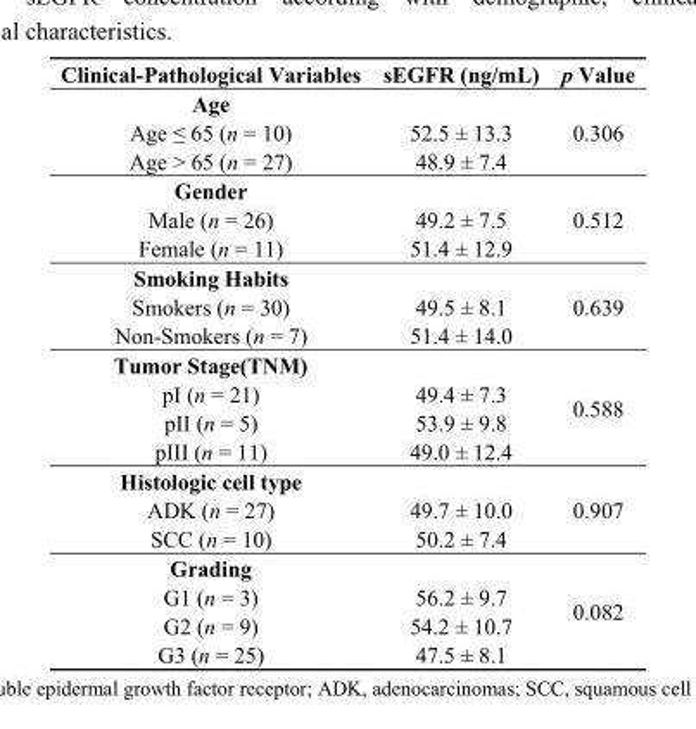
<table><thead><tr><td>Clinical-Pathological Variables</td><td>sEGFR (ng/mL)</td><td>p Value</td></tr></thead><tbody><tr><td colspan="2">Age</td><td rowspan="3">0.306</td></tr><tr><td>Age ≤ 65 (n = 10)</td><td>52.5 ± 13.3</td></tr><tr><td>Age &gt; 65 (n = 27)</td><td>48.9 ± 7.4</td></tr><tr><td colspan="2">Gender</td><td rowspan="3">0.512</td></tr><tr><td>Male (n = 26)</td><td>49.2 ± 7.5</td></tr><tr><td>Female (n = 11)</td><td>51.4 ± 12.9</td></tr><tr><td colspan="2">Smoking Habits</td><td rowspan="3">0.639</td></tr><tr><td>Smokers (n = 30)</td><td>49.5 ± 8.1</td></tr><tr><td>Non-Smokers (n = 7)</td><td>51.4 ± 14.0</td></tr><tr><td colspan="2">Tumor Stage(TNM)</td><td rowspan="4">0.588</td></tr><tr><td>pI (n = 21)</td><td>49.4 ± 7.3</td></tr><tr><td>pII (n = 5)</td><td>53.9 ± 9.8</td></tr><tr><td>pIII (n = 11)</td><td>49.0 ± 12.4</td></tr><tr><td colspan="2">Histologic cell type</td><td rowspan="3">0.907</td></tr><tr><td>ADK (n = 27)</td><td>49.7 ± 10.0</td></tr><tr><td>SCC (n = 10)</td><td>50.2 ± 7.4</td></tr><tr><td colspan="2">Grading</td><td rowspan="4">0.082</td></tr><tr><td>G1 (n = 3)</td><td>56.2 ± 9.7</td></tr><tr><td>G2 (n = 9)</td><td>54.2 ± 10.7</td></tr><tr><td>G3 (n = 25)</td><td>47.5 ± 8.1</td></tr></tbody></table>